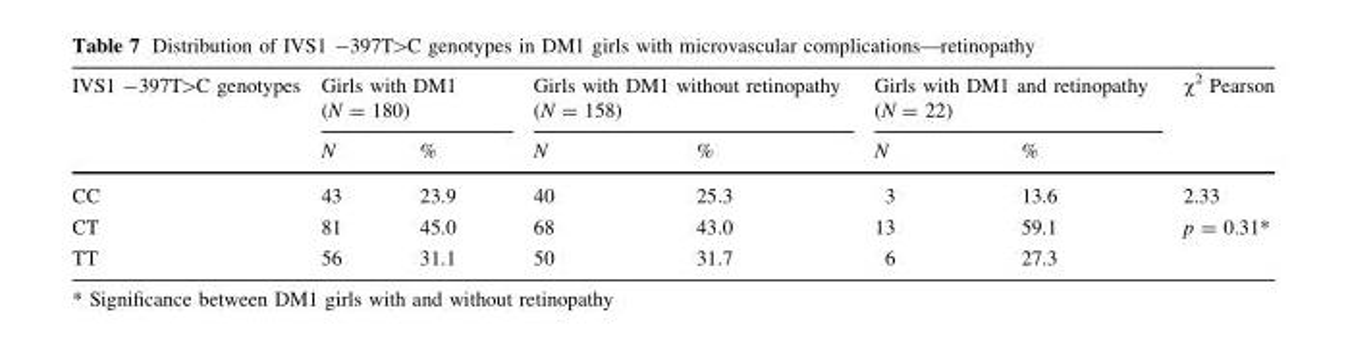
<table><thead><tr><td rowspan="2">IVS1 -397T&gt;C genotypes</td><td colspan="2">Girls with DM1 (N = 180)</td><td colspan="2">Girls with DM1 without retinopathy (N = 158)</td><td colspan="2">Girls with DM1 and retinopathy (N = 22)</td><td rowspan="2">χ<sup>2</sup> Pearson</td></tr><tr><td>N</td><td>%</td><td>N</td><td>%</td><td>N</td><td>%</td></tr></thead><tbody><tr><td>CC</td><td>43</td><td>23.9</td><td>40</td><td>25.3</td><td>3</td><td>13.6</td><td rowspan="3">2.33 p = 0.31*</td></tr><tr><td>CT</td><td>81</td><td>45.0</td><td>68</td><td>43.0</td><td>13</td><td>59.1</td></tr><tr><td>TT</td><td>56</td><td>31.1</td><td>50</td><td>31.7</td><td>6</td><td>27.3</td></tr></tbody></table>